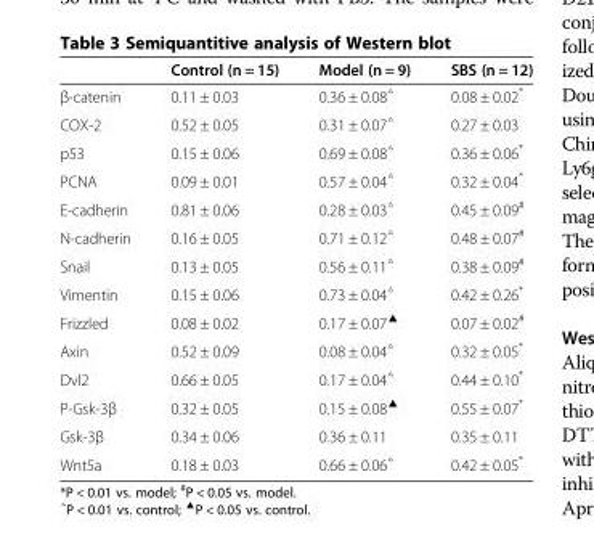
<table><thead><tr><td></td><td>Control (n = 15)</td><td>Model (n = 9)</td><td>SBS (n = 12)</td></tr></thead><tbody><tr><td>β-catenin</td><td>0.11 ± 0.03</td><td>0.36 ± 0.08<sup>△</sup></td><td>0.08 ± 0.02*</td></tr><tr><td>COX-2</td><td>0.52 ± 0.05</td><td>0.31 ± 0.07<sup>△</sup></td><td>0.27 ± 0.03</td></tr><tr><td>p53</td><td>0.15 ± 0.06</td><td>0.69 ± 0.08<sup>△</sup></td><td>0.36 ± 0.06*</td></tr><tr><td>PCNA</td><td>0.09 ± 0.01</td><td>0.57 ± 0.04<sup>△</sup></td><td>0.32 ± 0.04*</td></tr><tr><td>E-cadherin</td><td>0.81 ± 0.06</td><td>0.28 ± 0.03<sup>△</sup></td><td>0.45 ± 0.09<sup>#</sup></td></tr><tr><td>N-cadherin</td><td>0.16 ± 0.05</td><td>0.71 ± 0.12<sup>△</sup></td><td>0.48 ± 0.07<sup>#</sup></td></tr><tr><td>Snail</td><td>0.13 ± 0.05</td><td>0.56 ± 0.11<sup>△</sup></td><td>0.38 ± 0.09<sup>#</sup></td></tr><tr><td>Vimentin</td><td>0.15 ± 0.06</td><td>0.73 ± 0.04<sup>△</sup></td><td>0.42 ± 0.26*</td></tr><tr><td>Frizzled</td><td>0.08 ± 0.02</td><td>0.17 ± 0.07<sup>▲</sup></td><td>0.07 ± 0.02<sup>#</sup></td></tr><tr><td>Axin</td><td>0.52 ± 0.09</td><td>0.08 ± 0.04<sup>△</sup></td><td>0.32 ± 0.05*</td></tr><tr><td>Dvl2</td><td>0.66 ± 0.05</td><td>0.17 ± 0.04<sup>△</sup></td><td>0.44 ± 0.10*</td></tr><tr><td>P-Gsk-3β</td><td>0.32 ± 0.05</td><td>0.15 ± 0.08<sup>▲</sup></td><td>0.55 ± 0.07*</td></tr><tr><td>Gsk-3β</td><td>0.34 ± 0.06</td><td>0.36 ± 0.11</td><td>0.35 ± 0.11</td></tr><tr><td>Wnt5a</td><td>0.18 ± 0.03</td><td>0.66 ± 0.06<sup>△</sup></td><td>0.42 ± 0.05*</td></tr></tbody></table>